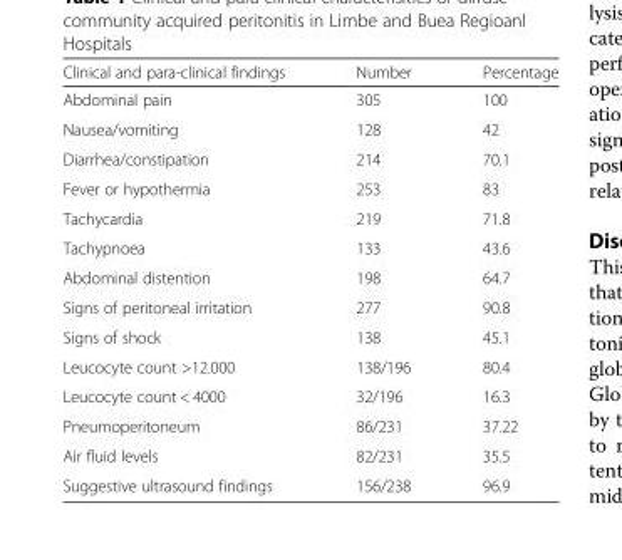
<table><thead><tr><td>Clinical and para-clinical findings</td><td>Number</td><td>Percentage</td></tr></thead><tbody><tr><td>Abdominal pain</td><td>305</td><td>100</td></tr><tr><td>Nausea/vomiting</td><td>128</td><td>42</td></tr><tr><td>Diarrhea/constipation</td><td>214</td><td>70.1</td></tr><tr><td>Fever or hypothermia</td><td>253</td><td>83</td></tr><tr><td>Tachycardia</td><td>219</td><td>71.8</td></tr><tr><td>Tachypnoea</td><td>133</td><td>43.6</td></tr><tr><td>Abdominal distention</td><td>198</td><td>64.7</td></tr><tr><td>Signs of peritoneal irritation</td><td>277</td><td>90.8</td></tr><tr><td>Signs of shock</td><td>138</td><td>45.1</td></tr><tr><td>Leucocyte count &gt;12.000</td><td>138/196</td><td>80.4</td></tr><tr><td>Leucocyte count &lt; 4000</td><td>32/196</td><td>16.3</td></tr><tr><td>Pneumoperitoneum</td><td>86/231</td><td>37.22</td></tr><tr><td>Air fluid levels</td><td>82/231</td><td>35.5</td></tr><tr><td>Suggestive ultrasound findings</td><td>156/238</td><td>96.9</td></tr></tbody></table>